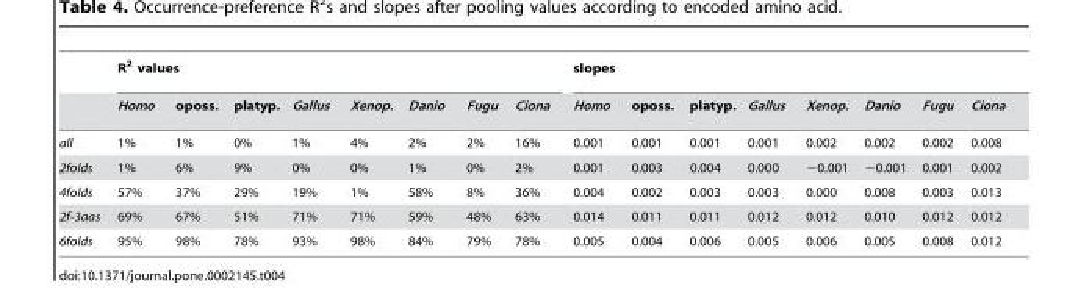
<table><thead><tr><td rowspan="2"></td><td colspan="8">R<sup>2</sup> values</td><td colspan="8">slopes</td></tr><tr><td>Homo</td><td>oposs.</td><td>platyp.</td><td>Gallus</td><td>Xenop.</td><td>Danio</td><td>Fugu</td><td>Ciona</td><td>Homo</td><td>oposs.</td><td>platyp.</td><td>Gallus</td><td>Xenop.</td><td>Danio</td><td>Fugu</td><td>Ciona</td></tr></thead><tbody><tr><td>all</td><td>1%</td><td>1%</td><td>0%</td><td>1%</td><td>4%</td><td>2%</td><td>2%</td><td>16%</td><td>0.001</td><td>0.001</td><td>0.001</td><td>0.001</td><td>0.002</td><td>0.002</td><td>0.002</td><td>0.008</td></tr><tr><td>2folds</td><td>1%</td><td>6%</td><td>9%</td><td>0%</td><td>0%</td><td>1%</td><td>0%</td><td>2%</td><td>0.001</td><td>0.003</td><td>0.004</td><td>0.000</td><td>−0.001</td><td>−0.001</td><td>0.001</td><td>0.002</td></tr><tr><td>4folds</td><td>57%</td><td>37%</td><td>29%</td><td>19%</td><td>1%</td><td>58%</td><td>8%</td><td>36%</td><td>0.004</td><td>0.002</td><td>0.003</td><td>0.003</td><td>0.000</td><td>0.008</td><td>0.003</td><td>0.013</td></tr><tr><td>2f-3aas</td><td>69%</td><td>67%</td><td>51%</td><td>71%</td><td>71%</td><td>59%</td><td>48%</td><td>63%</td><td>0.014</td><td>0.011</td><td>0.011</td><td>0.012</td><td>0.012</td><td>0.010</td><td>0.012</td><td>0.012</td></tr><tr><td>6folds</td><td>95%</td><td>98%</td><td>78%</td><td>93%</td><td>98%</td><td>84%</td><td>79%</td><td>78%</td><td>0.005</td><td>0.004</td><td>0.006</td><td>0.005</td><td>0.006</td><td>0.005</td><td>0.008</td><td>0.012</td></tr></tbody></table>